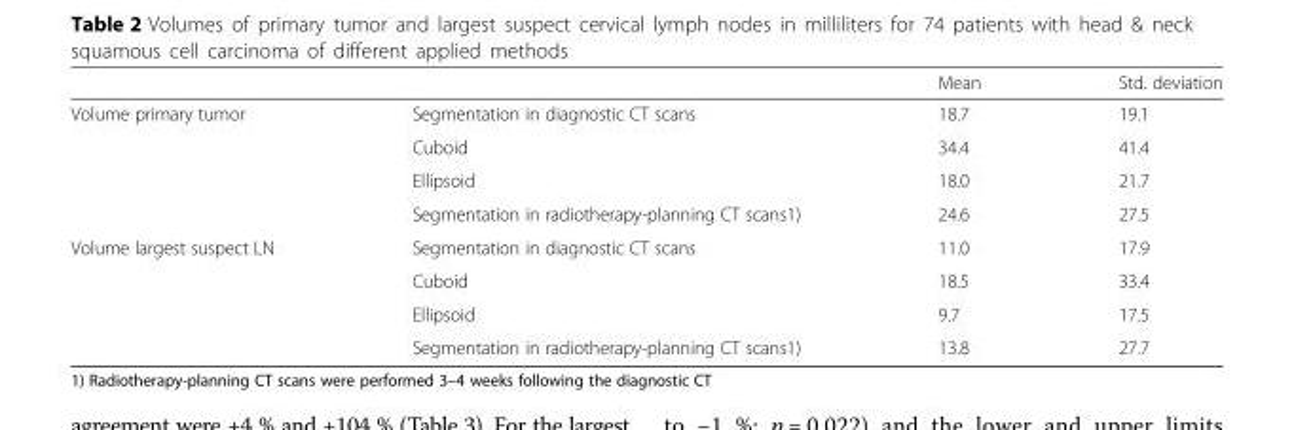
<table><thead><tr><td></td><td></td><td>Mean</td><td>Std. deviation</td></tr></thead><tbody><tr><td rowspan="4">Volume primary tumor</td><td>Segmentation in diagnostic CT scans</td><td>18.7</td><td>19.1</td></tr><tr><td>Cuboid</td><td>34.4</td><td>41.4</td></tr><tr><td>Ellipsoid</td><td>18.0</td><td>21.7</td></tr><tr><td>Segmentation in radiotherapy-planning CT scans1)</td><td>24.6</td><td>27.5</td></tr><tr><td rowspan="4">Volume largest suspect LN</td><td>Segmentation in diagnostic CT scans</td><td>11.0</td><td>17.9</td></tr><tr><td>Cuboid</td><td>18.5</td><td>33.4</td></tr><tr><td>Ellipsoid</td><td>9.7</td><td>17.5</td></tr><tr><td>Segmentation in radiotherapy-planning CT scans1)</td><td>13.8</td><td>27.7</td></tr></tbody></table>